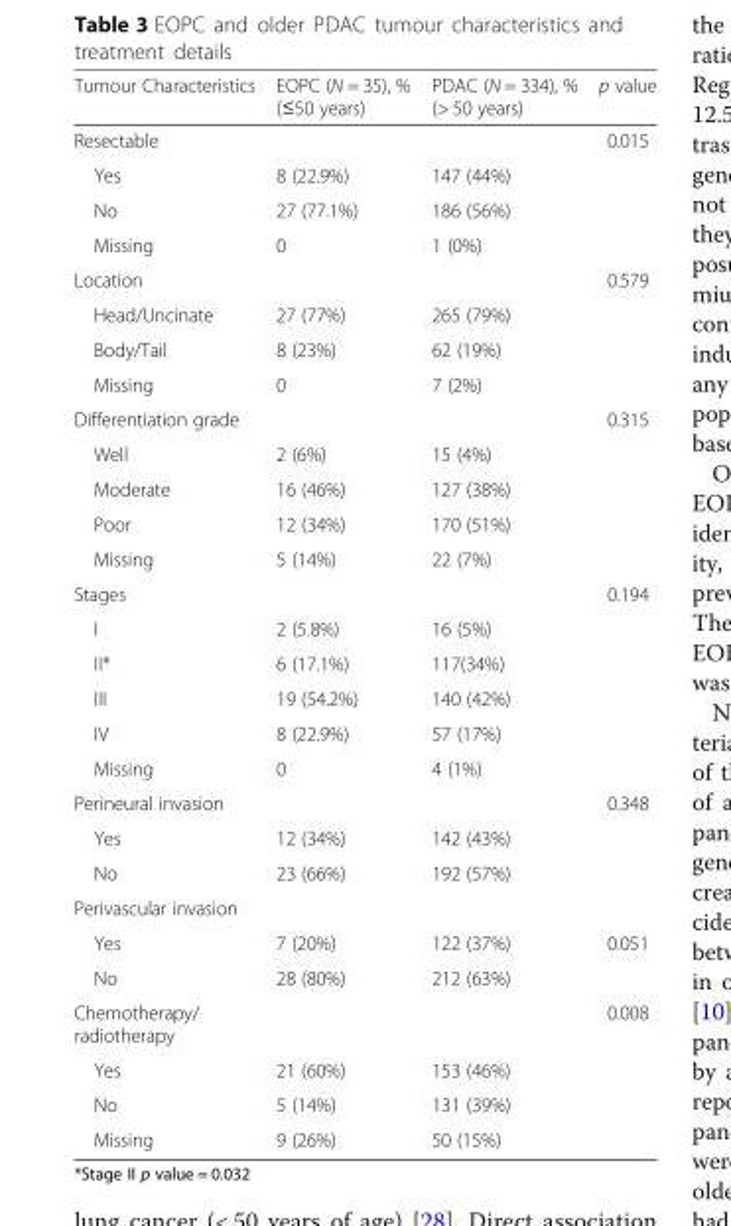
<table><thead><tr><td>Tumour Characteristics</td><td>EOPC (N = 35), % (≤50 years)</td><td>PDAC (N = 334), % (&gt; 50 years)</td><td>p value</td></tr></thead><tbody><tr><td>Resectable</td><td></td><td></td><td>0.015</td></tr><tr><td>Yes</td><td>8 (22.9%)</td><td>147 (44%)</td><td></td></tr><tr><td>No</td><td>27 (77.1%)</td><td>186 (56%)</td><td></td></tr><tr><td>Missing</td><td>0</td><td>1 (0%)</td><td></td></tr><tr><td>Location</td><td></td><td></td><td>0.579</td></tr><tr><td>Head/Uncinate</td><td>27 (77%)</td><td>265 (79%)</td><td></td></tr><tr><td>Body/Tail</td><td>8 (23%)</td><td>62 (19%)</td><td></td></tr><tr><td>Missing</td><td>0</td><td>7 (2%)</td><td></td></tr><tr><td>Differentiation grade</td><td></td><td></td><td>0.315</td></tr><tr><td>Well</td><td>2 (6%)</td><td>15 (4%)</td><td></td></tr><tr><td>Moderate</td><td>16 (46%)</td><td>127 (38%)</td><td></td></tr><tr><td>Poor</td><td>12 (34%)</td><td>170 (51%)</td><td></td></tr><tr><td>Missing</td><td>5 (14%)</td><td>22 (7%)</td><td></td></tr><tr><td>Stages</td><td></td><td></td><td>0.194</td></tr><tr><td>I</td><td>2 (5.8%)</td><td>16 (5%)</td><td></td></tr><tr><td>II*</td><td>6 (17.1%)</td><td>117(34%)</td><td></td></tr><tr><td>III</td><td>19 (54.2%)</td><td>140 (42%)</td><td></td></tr><tr><td>IV</td><td>8 (22.9%)</td><td>57 (17%)</td><td></td></tr><tr><td>Missing</td><td>0</td><td>4 (1%)</td><td></td></tr><tr><td>Perineural invasion</td><td></td><td></td><td>0.348</td></tr><tr><td>Yes</td><td>12 (34%)</td><td>142 (43%)</td><td></td></tr><tr><td>No</td><td>23 (66%)</td><td>192 (57%)</td><td></td></tr><tr><td colspan="4">Perivascular invasion</td></tr><tr><td>Yes</td><td>7 (20%)</td><td>122 (37%)</td><td>0.051</td></tr><tr><td>No</td><td>28 (80%)</td><td>212 (63%)</td><td></td></tr><tr><td>Chemotherapy/ radiotherapy</td><td></td><td></td><td>0.008</td></tr><tr><td>Yes</td><td>21 (60%)</td><td>153 (46%)</td><td></td></tr><tr><td>No</td><td>5 (14%)</td><td>131 (39%)</td><td></td></tr><tr><td>Missing</td><td>9 (26%)</td><td>50 (15%)</td><td></td></tr></tbody></table>